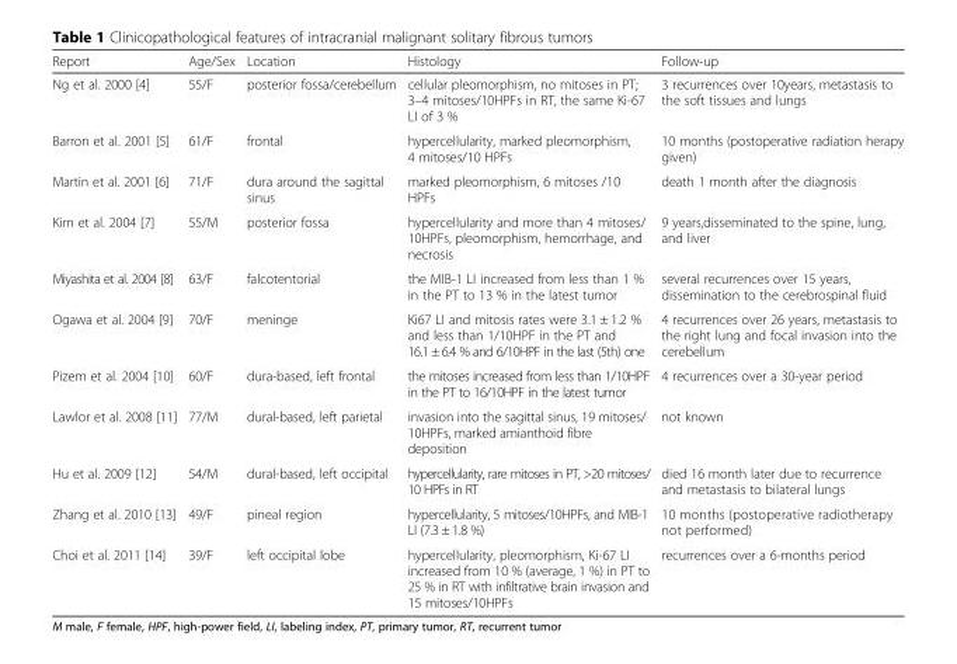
<table><thead><tr><td>Report</td><td>Age/Sex</td><td>Location</td><td>Histology</td><td>Follow-up</td></tr></thead><tbody><tr><td>Ng et al. 2000 [4]</td><td>55/F</td><td>posterior fossa/cerebellum</td><td>cellular pleomorphism, no mitoses in PT; 3–4 mitoses/10HPFs in RT, the same Ki-67 LI of 3 %</td><td>3 recurrences over 10years, metastasis to the soft tissues and lungs</td></tr><tr><td>Barron et al. 2001 [5]</td><td>61/F</td><td>frontal</td><td>hypercellularity, marked pleomorphism, 4 mitoses/10 HPFs</td><td>10 months (postoperative radiation herapy given)</td></tr><tr><td>Martin et al. 2001 [6]</td><td>71/F</td><td>dura around the sagittal sinus</td><td>marked pleomorphism, 6 mitoses /10 HPFs</td><td>death 1 month after the diagnosis</td></tr><tr><td>Kim et al. 2004 [7]</td><td>55/M</td><td>posterior fossa</td><td>hypercellularity and more than 4 mitoses/ 10HPFs, pleomorphism, hemorrhage, and necrosis</td><td>9 years,disseminated to the spine, lung, and liver</td></tr><tr><td>Miyashita et al. 2004 [8]</td><td>63/F</td><td>falcotentorial</td><td>the MIB-1 LI increased from less than 1 % in the PT to 13 % in the latest tumor</td><td>several recurrences over 15 years, dissemination to the cerebrospinal fluid</td></tr><tr><td>Ogawa et al. 2004 [9]</td><td>70/F</td><td>meninge</td><td>Ki67 LI and mitosis rates were 3.1 ± 1.2 % and less than 1/10HPF in the PT and 16.1 ± 6.4 % and 6/10HPF in the last (5th) one</td><td>4 recurrences over 26 years, metastasis to the right lung and focal invasion into the cerebellum</td></tr><tr><td>Pizem et al. 2004 [10]</td><td>60/F</td><td>dura-based, left frontal</td><td>the mitoses increased from less than 1/10HPF in the PT to 16/10HPF in the latest tumor</td><td>4 recurrences over a 30-year period</td></tr><tr><td>Lawlor et al. 2008 [11]</td><td>77/M</td><td>dural-based, left parietal</td><td>invasion into the sagittal sinus, 19 mitoses/ 10HPFs, marked amianthoid fibre deposition</td><td>not known</td></tr><tr><td>Hu et al. 2009 [12]</td><td>54/M</td><td>dural-based, left occipital</td><td>hypercellularity, rare mitoses in PT, &gt;20 mitoses/ 10 HPFs in RT</td><td>died 16 month later due to recurrence and metastasis to bilateral lungs</td></tr><tr><td>Zhang et al. 2010 [13]</td><td>49/F</td><td>pineal region</td><td>hypercellularity, 5 mitoses/10HPFs, and MIB-1 LI (7.3 ± 1.8 %)</td><td>10 months (postoperative radiotherapy not performed)</td></tr><tr><td>Choi et al. 2011 [14]</td><td>39/F</td><td>left occipital lobe</td><td>hypercellularity, pleomorphism, Ki-67 LI increased from 10 % (average, 1 %) in PT to 25 % in RT with infiltrative brain invasion and 15 mitoses/10HPFs</td><td>recurrences over a 6-months period</td></tr></tbody></table>